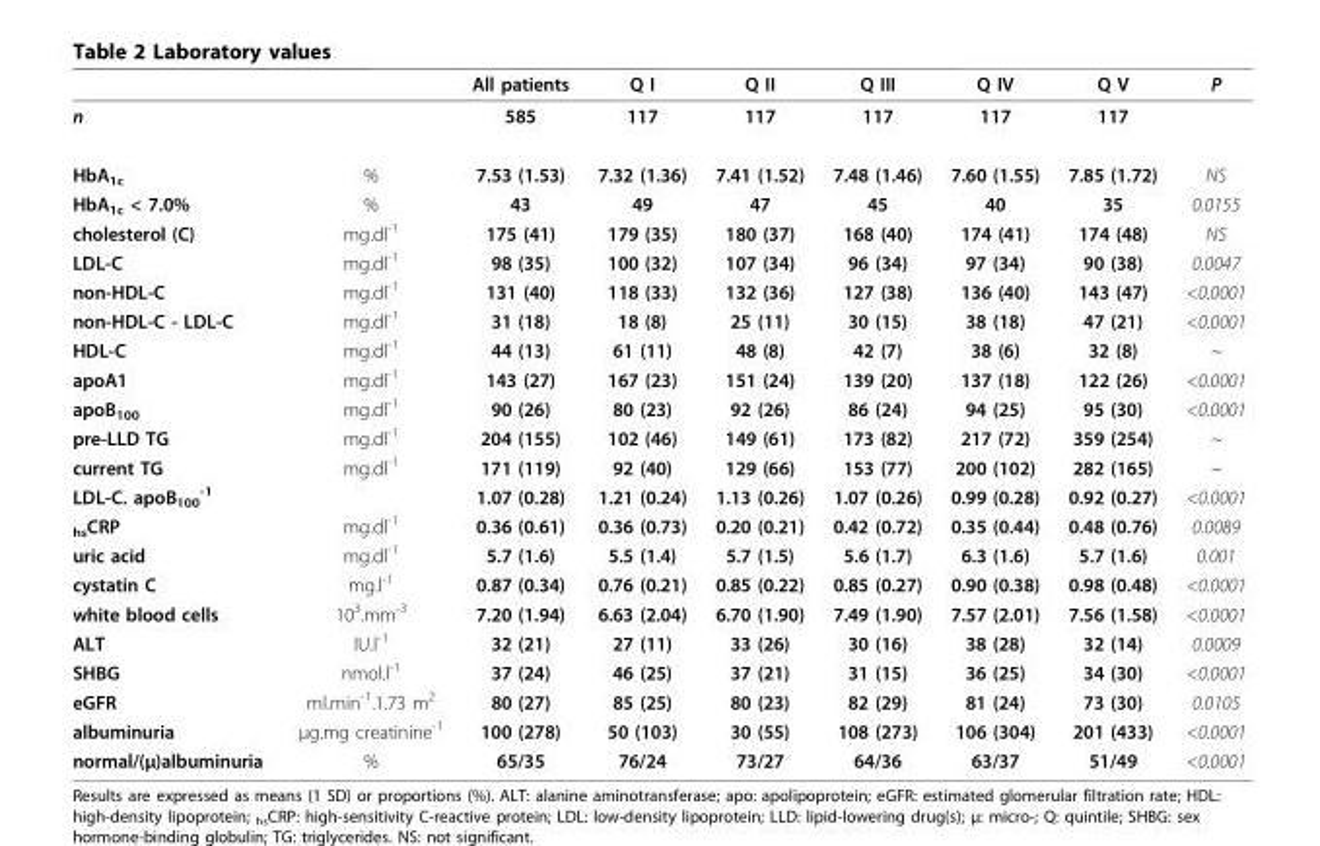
<table><thead><tr><td></td><td></td><td>All patients</td><td>Q I</td><td>Q II</td><td>Q III</td><td>Q IV</td><td>Q V</td><td>P</td></tr></thead><tbody><tr><td>n</td><td></td><td>585</td><td>117</td><td>117</td><td>117</td><td>117</td><td>117</td><td></td></tr><tr><td>HbA<sub>1c</sub></td><td>%</td><td>7.53 (1.53)</td><td>7.32 (1.36)</td><td>7.41 (1.52)</td><td>7.48 (1.46)</td><td>7.60 (1.55)</td><td>7.85 (1.72)</td><td>NS</td></tr><tr><td>HbA<sub>1c</sub> &lt; 7.0%</td><td>%</td><td>43</td><td>49</td><td>47</td><td>45</td><td>40</td><td>35</td><td>0.0155</td></tr><tr><td>cholesterol (C)</td><td>mg.dl<sup>-1</sup></td><td>175 (41)</td><td>179 (35)</td><td>180 (37)</td><td>168 (40)</td><td>174 (41)</td><td>174 (48)</td><td>NS</td></tr><tr><td>LDL-C</td><td>mg.dl<sup>-1</sup></td><td>98 (35)</td><td>100 (32)</td><td>107 (34)</td><td>96 (34)</td><td>97 (34)</td><td>90 (38)</td><td>0.0047</td></tr><tr><td>non-HDL-C</td><td>mg.dl<sup>-1</sup></td><td>131 (40)</td><td>118 (33)</td><td>132 (36)</td><td>127 (38)</td><td>136 (40)</td><td>143 (47)</td><td>&lt;0.0001</td></tr><tr><td>non-HDL-C - LDL-C</td><td>mg.dl<sup>-1</sup></td><td>31 (18)</td><td>18 (8)</td><td>25 (11)</td><td>30 (15)</td><td>38 (18)</td><td>47 (21)</td><td>&lt;0.0001</td></tr><tr><td>HDL-C</td><td>mg.dl<sup>-1</sup></td><td>44 (13)</td><td>61 (11)</td><td>48 (8)</td><td>42 (7)</td><td>38 (6)</td><td>32 (8)</td><td>~</td></tr><tr><td>apoA1</td><td>mg.dl<sup>-1</sup></td><td>143 (27)</td><td>167 (23)</td><td>151 (24)</td><td>139 (20)</td><td>137 (18)</td><td>122 (26)</td><td>&lt;0.0001</td></tr><tr><td>apoB<sub>100</sub></td><td>mg.dl<sup>-1</sup></td><td>90 (26)</td><td>80 (23)</td><td>92 (26)</td><td>86 (24)</td><td>94 (25)</td><td>95 (30)</td><td>&lt;0.0001</td></tr><tr><td>pre-LLD TG</td><td>mg.dl<sup>-1</sup></td><td>204 (155)</td><td>102 (46)</td><td>149 (61)</td><td>173 (82)</td><td>217 (72)</td><td>359 (254)</td><td>~</td></tr><tr><td>current TG</td><td>mg.dl<sup>-1</sup></td><td>171 (119)</td><td>92 (40)</td><td>129 (66)</td><td>153 (77)</td><td>200 (102)</td><td>282 (165)</td><td>~</td></tr><tr><td>LDL-C. apoB<sub>100</sub> <sup>-1</sup></td><td></td><td>1.07 (0.28)</td><td>1.21 (0.24)</td><td>1.13 (0.26)</td><td>1.07 (0.26)</td><td>0.99 (0.28)</td><td>0.92 (0.27)</td><td>&lt;0.0001</td></tr><tr><td><sub>hs</sub>CRP</td><td>mg.dl<sup>-1</sup></td><td>0.36 (0.61)</td><td>0.36 (0.73)</td><td>0.20 (0.21)</td><td>0.42 (0.72)</td><td>0.35 (0.44)</td><td>0.48 (0.76)</td><td>0.0089</td></tr><tr><td>uric acid</td><td>mg.dl<sup>-1</sup></td><td>5.7 (1.6)</td><td>5.5 (1.4)</td><td>5.7 (1.5)</td><td>5.6 (1.7)</td><td>6.3 (1.6)</td><td>5.7 (1.6)</td><td>0.001</td></tr><tr><td>cystatin C</td><td>mg.l<sup>-1</sup></td><td>0.87 (0.34)</td><td>0.76 (0.21)</td><td>0.85 (0.22)</td><td>0.85 (0.27)</td><td>0.90 (0.38)</td><td>0.98 (0.48)</td><td>&lt;0.0001</td></tr><tr><td>white blood cells</td><td>10<sup>3</sup>.mm<sup>-3</sup></td><td>7.20 (1.94)</td><td>6.63 (2.04)</td><td>6.70 (1.90)</td><td>7.49 (1.90)</td><td>7.57 (2.01)</td><td>7.56 (1.58)</td><td>&lt;0.0001</td></tr><tr><td>ALT</td><td>IU.l<sup>-1</sup></td><td>32 (21)</td><td>27 (11)</td><td>33 (26)</td><td>30 (16)</td><td>38 (28)</td><td>32 (14)</td><td>0.0009</td></tr><tr><td>SHBG</td><td>nmol.l<sup>-1</sup></td><td>37 (24)</td><td>46 (25)</td><td>37 (21)</td><td>31 (15)</td><td>36 (25)</td><td>34 (30)</td><td>&lt;0.0001</td></tr><tr><td>eGFR</td><td>ml.min<sup>-1</sup>.1.73 m<sup>2</sup></td><td>80 (27)</td><td>85 (25)</td><td>80 (23)</td><td>82 (29)</td><td>81 (24)</td><td>73 (30)</td><td>0.0105</td></tr><tr><td>albuminuria</td><td>μg.mg creatinine<sup>-1</sup></td><td>100 (278)</td><td>50 (103)</td><td>30 (55)</td><td>108 (273)</td><td>106 (304)</td><td>201 (433)</td><td>&lt;0.0001</td></tr><tr><td>normal/(μ)albuminuria</td><td>%</td><td>65/35</td><td>76/24</td><td>73/27</td><td>64/36</td><td>63/37</td><td>51/49</td><td>&lt;0.0001</td></tr></tbody></table>